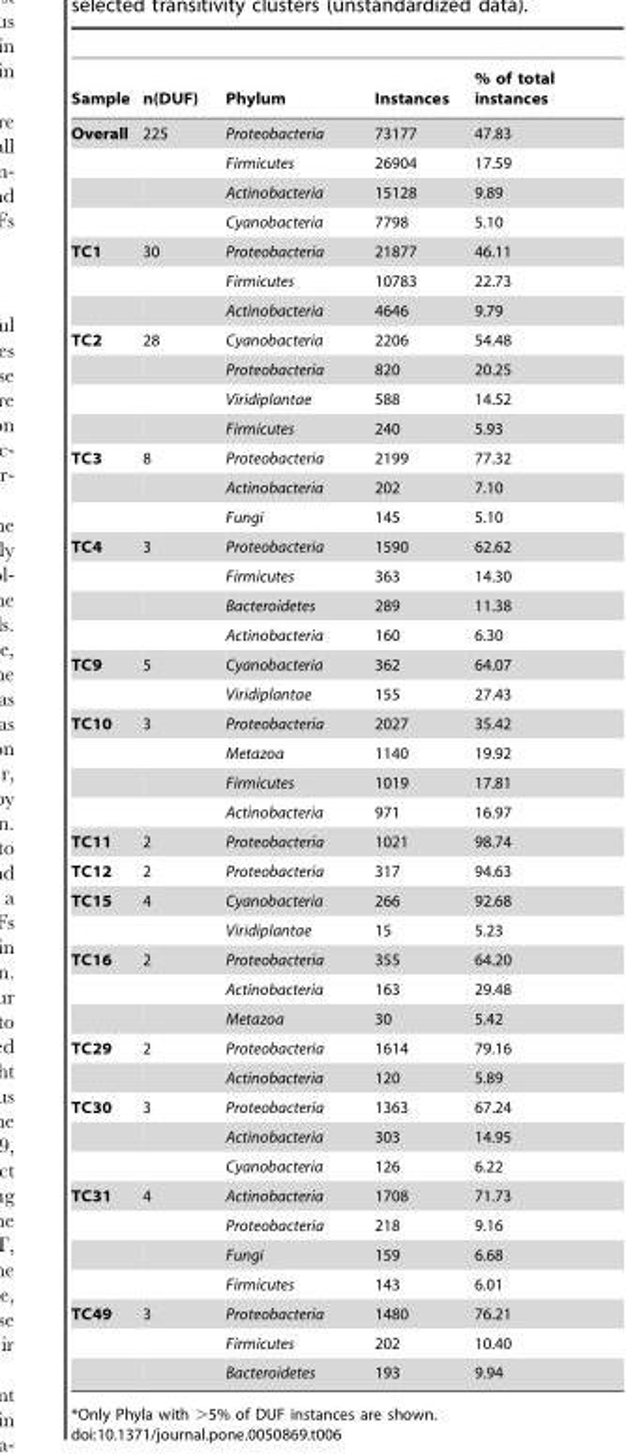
<table><thead><tr><td>Sample</td><td>n(DUF)</td><td>Phylum</td><td>Instances</td><td>% of total instances</td></tr></thead><tbody><tr><td rowspan="4">Overall</td><td>225</td><td>Proteobacteria</td><td>73177</td><td>47.83</td></tr><tr><td></td><td>Firmicutes</td><td>26904</td><td>17.59</td></tr><tr><td></td><td>Actinobacteria</td><td>15128</td><td>9.89</td></tr><tr><td></td><td>Cyanobacteria</td><td>7798</td><td>5.10</td></tr><tr><td rowspan="3">TC1</td><td>30</td><td>Proteobacteria</td><td>21877</td><td>46.11</td></tr><tr><td></td><td>Firmicutes</td><td>10783</td><td>22.73</td></tr><tr><td></td><td>Actinobacteria</td><td>4646</td><td>9.79</td></tr><tr><td rowspan="4">TC2</td><td>28</td><td>Cyanobacteria</td><td>2206</td><td>54.48</td></tr><tr><td></td><td>Proteobacteria</td><td>820</td><td>20.25</td></tr><tr><td></td><td>Viridiplantae</td><td>588</td><td>14.52</td></tr><tr><td></td><td>Firmicutes</td><td>240</td><td>5.93</td></tr><tr><td rowspan="3">TC3</td><td>8</td><td>Proteobacteria</td><td>2199</td><td>77.32</td></tr><tr><td></td><td>Actinobacteria</td><td>202</td><td>7.10</td></tr><tr><td></td><td>Fungi</td><td>145</td><td>5.10</td></tr><tr><td rowspan="4">TC4</td><td>3</td><td>Proteobacteria</td><td>1590</td><td>62.62</td></tr><tr><td></td><td>Firmicutes</td><td>363</td><td>14.30</td></tr><tr><td></td><td>Bacteroidetes</td><td>289</td><td>11.38</td></tr><tr><td></td><td>Actinobacteria</td><td>160</td><td>6.30</td></tr><tr><td rowspan="2">TC9</td><td>5</td><td>Cyanobacteria</td><td>362</td><td>64.07</td></tr><tr><td></td><td>Viridiplantae</td><td>155</td><td>27.43</td></tr><tr><td rowspan="4">TC10</td><td>3</td><td>Proteobacteria</td><td>2027</td><td>35.42</td></tr><tr><td></td><td>Metazoa</td><td>1140</td><td>19.92</td></tr><tr><td></td><td>Firmicutes</td><td>1019</td><td>17.81</td></tr><tr><td></td><td>Actinobacteria</td><td>971</td><td>16.97</td></tr><tr><td>TC11</td><td>2</td><td>Proteobacteria</td><td>1021</td><td>98.74</td></tr><tr><td>TC12</td><td>2</td><td>Proteobacteria</td><td>317</td><td>94.63</td></tr><tr><td rowspan="2">TC15</td><td>4</td><td>Cyanobacteria</td><td>266</td><td>92.68</td></tr><tr><td></td><td>Viridiplantae</td><td>15</td><td>5.23</td></tr><tr><td rowspan="3">TC16</td><td>2</td><td>Proteobacteria</td><td>355</td><td>64.20</td></tr><tr><td></td><td>Actinobacteria</td><td>163</td><td>29.48</td></tr><tr><td></td><td>Metazoa</td><td>30</td><td>5.42</td></tr><tr><td rowspan="2">TC29</td><td>2</td><td>Proteobacteria</td><td>1614</td><td>79.16</td></tr><tr><td></td><td>Actinobacteria</td><td>120</td><td>5.89</td></tr><tr><td rowspan="3">TC30</td><td>3</td><td>Proteobacteria</td><td>1363</td><td>67.24</td></tr><tr><td></td><td>Actinobacteria</td><td>303</td><td>14.95</td></tr><tr><td></td><td>Cyanobacteria</td><td>126</td><td>6.22</td></tr><tr><td rowspan="4">TC31</td><td>4</td><td>Actinobacteria</td><td>1708</td><td>71.73</td></tr><tr><td></td><td>Proteobacteria</td><td>218</td><td>9.16</td></tr><tr><td></td><td>Fungi</td><td>159</td><td>6.68</td></tr><tr><td></td><td>Firmicutes</td><td>143</td><td>6.01</td></tr><tr><td rowspan="3">TC49</td><td>3</td><td>Proteobacteria</td><td>1480</td><td>76.21</td></tr><tr><td></td><td>Firmicutes</td><td>202</td><td>10.40</td></tr><tr><td></td><td>Bacteroidetes</td><td>193</td><td>9.94</td></tr></tbody></table>